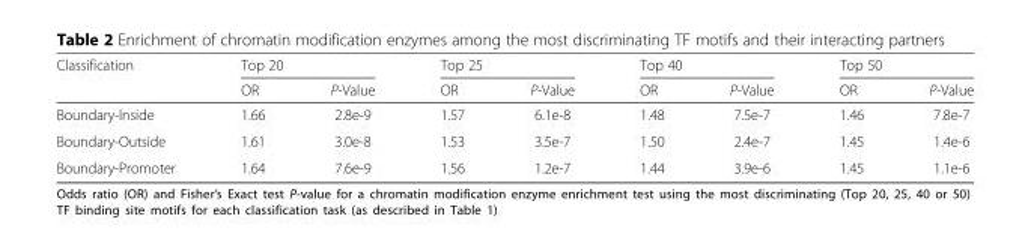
<table><thead><tr><td rowspan="2">Classification</td><td colspan="2">Top 20</td><td colspan="2">Top 25</td><td colspan="2">Top 40</td><td colspan="2">Top 50</td></tr><tr><td>OR</td><td>P-Value</td><td>OR</td><td>P-Value</td><td>OR</td><td>P-Value</td><td>OR</td><td>P-Value</td></tr></thead><tbody><tr><td>Boundary-Inside</td><td>1.66</td><td>2.8e-9</td><td>1.57</td><td>6.1e-8</td><td>1.48</td><td>7.5e-7</td><td>1.46</td><td>7.8e-7</td></tr><tr><td>Boundary-Outside</td><td>1.61</td><td>3.0e-8</td><td>1.53</td><td>3.5e-7</td><td>1.50</td><td>2.4e-7</td><td>1.45</td><td>1.4e-6</td></tr><tr><td>Boundary-Promoter</td><td>1.64</td><td>7.6e-9</td><td>1.56</td><td>1.2e-7</td><td>1.44</td><td>3.9e-6</td><td>1.45</td><td>1.1e-6</td></tr></tbody></table>